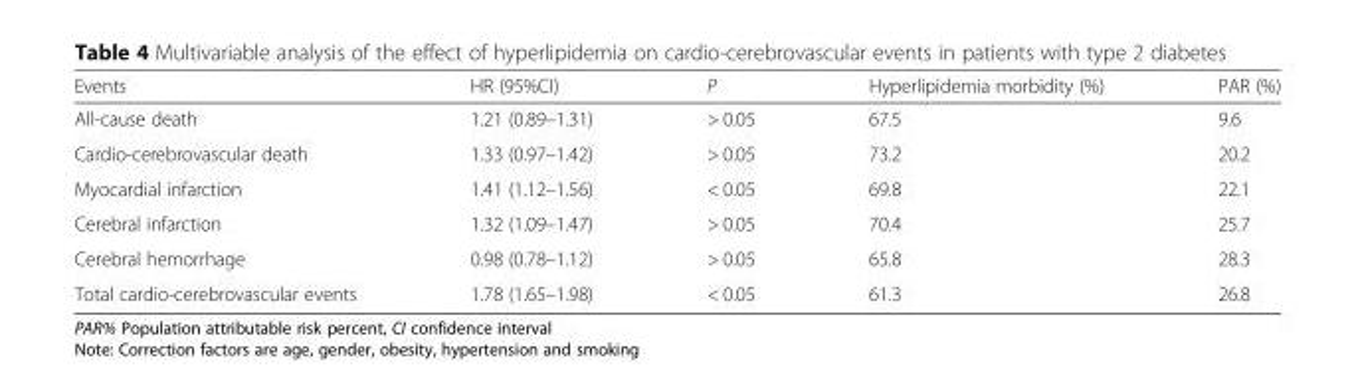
<table><thead><tr><td>Events</td><td>HR (95%CI)</td><td>P</td><td>Hyperlipidemia morbidity (%)</td><td>PAR (%)</td></tr></thead><tbody><tr><td>All-cause death</td><td>1.21 (0.89–1.31)</td><td>&gt; 0.05</td><td>67.5</td><td>9.6</td></tr><tr><td>Cardio-cerebrovascular death</td><td>1.33 (0.97–1.42)</td><td>&gt; 0.05</td><td>73.2</td><td>20.2</td></tr><tr><td>Myocardial infarction</td><td>1.41 (1.12–1.56)</td><td>&lt; 0.05</td><td>69.8</td><td>22.1</td></tr><tr><td>Cerebral infarction</td><td>1.32 (1.09–1.47)</td><td>&gt; 0.05</td><td>70.4</td><td>25.7</td></tr><tr><td>Cerebral hemorrhage</td><td>0.98 (0.78–1.12)</td><td>&gt; 0.05</td><td>65.8</td><td>28.3</td></tr><tr><td>Total cardio-cerebrovascular events</td><td>1.78 (1.65–1.98)</td><td>&lt; 0.05</td><td>61.3</td><td>26.8</td></tr></tbody></table>